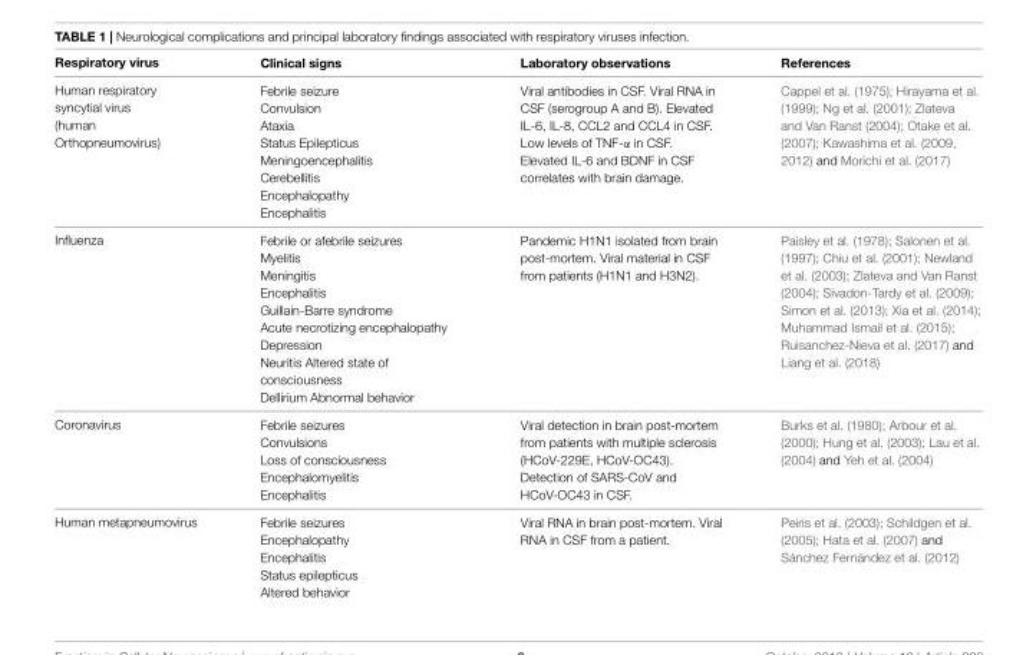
<table><thead><tr><td>Respiratory virus</td><td>Clinical signs</td><td>Laboratory observations</td><td>References</td></tr></thead><tbody><tr><td>Human respiratory syncytial virus (human Orthopneumovirus)</td><td>Febrile seizure Convulsion Ataxia Status Epilepticus Meningoencephalitis Cerebellitis Encephalopathy Encephalitis</td><td>Viral antibodies in CSF. Viral RNA in CSF (serogroup A and B). Elevated IL-6, IL-8, CCL2 and CCL4 in CSF. Low levels of TNF-α in CSF. Elevated IL-6 and BDNF in CSF correlates with brain damage.</td><td>Cappel et al. (1975); Hirayama et al. (1999); Ng et al. (2001); Zlateva and Van Ranst (2004); Otake et al. (2007); Kawashima et al. (2009, 2012) and Morichi et al. (2017)</td></tr><tr><td>Influenza</td><td>Febrile or afebrile seizures Myelitis Meningitis Encephalitis Guillain-Barre syndrome Acute necrotizing encephalopathy Depression Neuritis Altered state of consciousness Dellirium Abnormal behavior</td><td>Pandemic H1N1 isolated from brain post-mortem. Viral material in CSF from patients (H1N1 and H3N2).</td><td>Paisley et al. (1978); Salonen et al. (1997); Chiu et al. (2001); Newland et al. (2003); Zlateva and Van Ranst (2004); Sivadon-Tardy et al. (2009); Simon et al. (2013); Xia et al. (2014); Muhammad Ismail et al. (2015); Ruisanchez-Nieva et al. (2017) and Liang et al. (2018)</td></tr><tr><td>Coronavirus</td><td>Febrile seizures Convulsions Loss of consciousness Encephalomyelitis Encephalitis</td><td>Viral detection in brain post-mortem from patients with multiple sclerosis (HCoV-229E, HCoV-OC43). Detection of SARS-CoV and HCoV-OC43 in CSF.</td><td>Burks et al. (1980); Arbour et al. (2000); Hung et al. (2003); Lau et al. (2004) and Yeh et al. (2004)</td></tr><tr><td>Human metapneumovirus</td><td>Febrile seizures Encephalopathy Encephalitis Status epilepticus Altered behavior</td><td>Viral RNA in brain post-mortem. Viral RNA in CSF from a patient.</td><td>Peiris et al. (2003); Schildgen et al. (2005); Hata et al. (2007) and Sánchez Fernández et al. (2012)</td></tr></tbody></table>